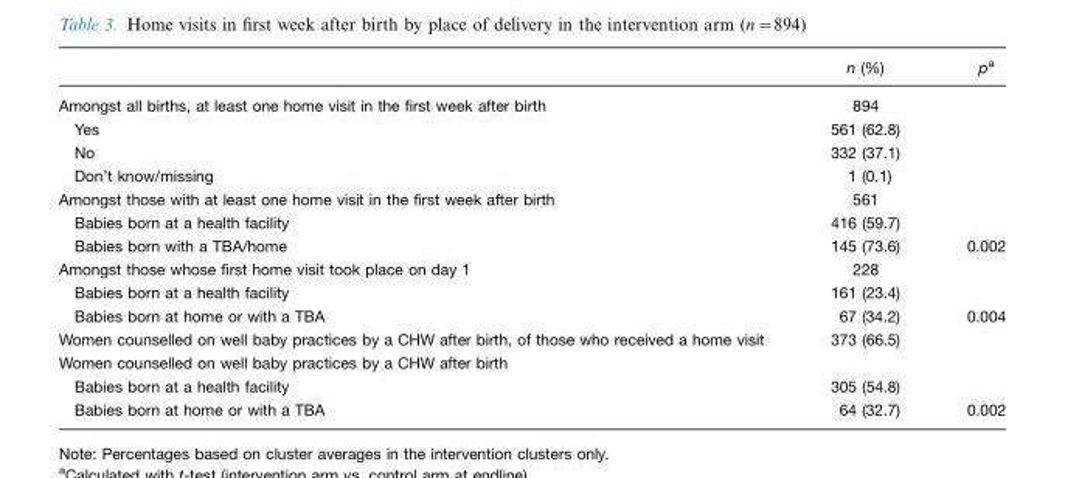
<table><thead><tr><td></td><td>n (%)</td><td>p<sup>a</sup></td></tr></thead><tbody><tr><td>Amongst all births, at least one home visit in the first week after birth</td><td>894</td><td></td></tr><tr><td>Yes</td><td>561 (62.8)</td><td></td></tr><tr><td>No</td><td>332 (37.1)</td><td></td></tr><tr><td>Don’t know/missing</td><td>1 (0.1)</td><td></td></tr><tr><td>Amongst those with at least one home visit in the first week after birth</td><td>561</td><td></td></tr><tr><td>Babies born at a health facility</td><td>416 (59.7)</td><td></td></tr><tr><td>Babies born with a TBA/home</td><td>145 (73.6)</td><td>0.002</td></tr><tr><td>Amongst those whose first home visit took place on day 1</td><td>228</td><td></td></tr><tr><td>Babies born at a health facility</td><td>161 (23.4)</td><td></td></tr><tr><td>Babies born at home or with a TBA</td><td>67 (34.2)</td><td>0.004</td></tr><tr><td>Women counselled on well baby practices by a CHW after birth, of those who received a home visit</td><td>373 (66.5)</td><td></td></tr><tr><td colspan="3">Women counselled on well baby practices by a CHW after birth</td></tr><tr><td>Babies born at a health facility</td><td>305 (54.8)</td><td></td></tr><tr><td>Babies born at home or with a TBA</td><td>64 (32.7)</td><td>0.002</td></tr></tbody></table>